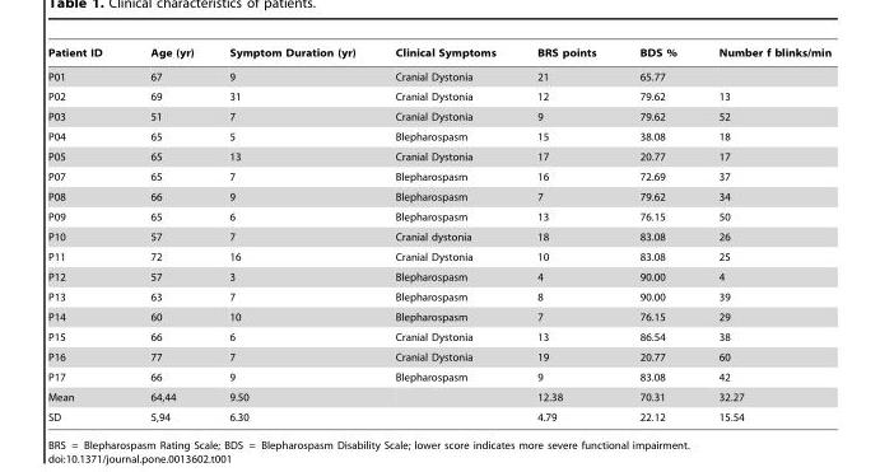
<table><thead><tr><td>Patient ID</td><td>Age (yr)</td><td>Symptom Duration (yr)</td><td>Clinical Symptoms</td><td>BRS points</td><td>BDS %</td><td>Number f blinks/min</td></tr></thead><tbody><tr><td>P01</td><td>67</td><td>9</td><td>Cranial Dystonia</td><td>21</td><td>65.77</td><td></td></tr><tr><td>P02</td><td>69</td><td>31</td><td>Cranial Dystonia</td><td>12</td><td>79.62</td><td>13</td></tr><tr><td>P03</td><td>51</td><td>7</td><td>Cranial Dystonia</td><td>9</td><td>79.62</td><td>52</td></tr><tr><td>P04</td><td>65</td><td>5</td><td>Blepharospasm</td><td>15</td><td>38.08</td><td>18</td></tr><tr><td>P05</td><td>65</td><td>13</td><td>Cranial Dystonia</td><td>17</td><td>20.77</td><td>17</td></tr><tr><td>P07</td><td>65</td><td>7</td><td>Blepharospasm</td><td>16</td><td>72.69</td><td>37</td></tr><tr><td>P08</td><td>66</td><td>9</td><td>Blepharospasm</td><td>7</td><td>79.62</td><td>34</td></tr><tr><td>P09</td><td>65</td><td>6</td><td>Blepharospasm</td><td>13</td><td>76.15</td><td>50</td></tr><tr><td>P10</td><td>57</td><td>7</td><td>Cranial dystonia</td><td>18</td><td>83.08</td><td>26</td></tr><tr><td>P11</td><td>72</td><td>16</td><td>Cranial Dystonia</td><td>10</td><td>83.08</td><td>25</td></tr><tr><td>P12</td><td>57</td><td>3</td><td>Blepharospasm</td><td>4</td><td>90.00</td><td>4</td></tr><tr><td>P13</td><td>63</td><td>7</td><td>Blepharospasm</td><td>8</td><td>90.00</td><td>39</td></tr><tr><td>P14</td><td>60</td><td>10</td><td>Blepharospasm</td><td>7</td><td>76.15</td><td>29</td></tr><tr><td>P15</td><td>66</td><td>6</td><td>Cranial Dystonia</td><td>13</td><td>86.54</td><td>38</td></tr><tr><td>P16</td><td>77</td><td>7</td><td>Cranial Dystonia</td><td>19</td><td>20.77</td><td>60</td></tr><tr><td>P17</td><td>66</td><td>9</td><td>Blepharospasm</td><td>9</td><td>83.08</td><td>42</td></tr><tr><td>Mean</td><td>64,44</td><td>9.50</td><td></td><td>12.38</td><td>70.31</td><td>32.27</td></tr><tr><td>SD</td><td>5,94</td><td>6.30</td><td></td><td>4.79</td><td>22.12</td><td>15.54</td></tr></tbody></table>